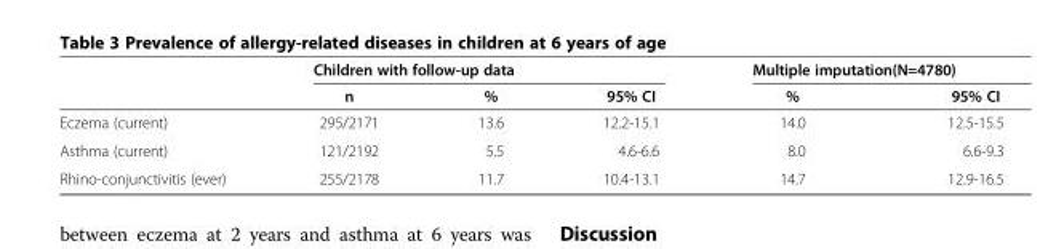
<table><thead><tr><td rowspan="2"></td><td colspan="3">Children with follow-up data</td><td colspan="2">Multiple imputation(N=4780)</td></tr><tr><td>n</td><td>%</td><td>95% CI</td><td>%</td><td>95% CI</td></tr></thead><tbody><tr><td>Eczema (current)</td><td>295/2171</td><td>13.6</td><td>12.2-15.1</td><td>14.0</td><td>12.5-15.5</td></tr><tr><td>Asthma (current)</td><td>121/2192</td><td>5.5</td><td>4.6-6.6</td><td>8.0</td><td>6.6-9.3</td></tr><tr><td>Rhino-conjunctivitis (ever)</td><td>255/2178</td><td>11.7</td><td>10.4-13.1</td><td>14.7</td><td>12.9-16.5</td></tr></tbody></table>